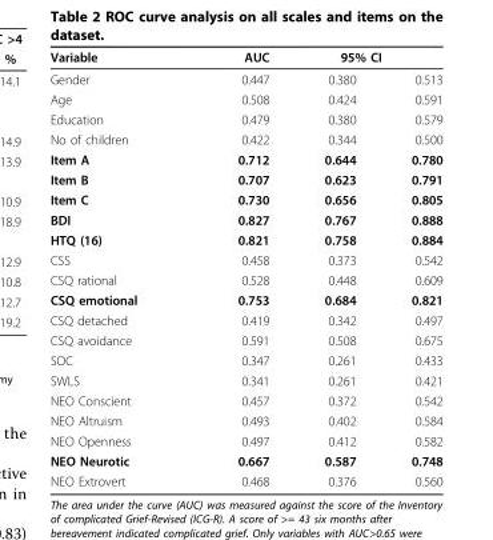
<table><thead><tr><td rowspan="2">Variable Gender</td><td rowspan="2">AUC 0.447</td><td colspan="2">95% CI</td></tr><tr><td>0.380</td><td>0.513</td></tr></thead><tbody><tr><td>Age</td><td>0.508</td><td>0.424</td><td>0.591</td></tr><tr><td>Education</td><td>0.479</td><td>0.380</td><td>0.579</td></tr><tr><td>No of children</td><td>0.422</td><td>0.344</td><td>0.500</td></tr><tr><td>Item A</td><td>0.712</td><td>0.644</td><td>0.780</td></tr><tr><td>Item B</td><td>0.707</td><td>0.623</td><td>0.791</td></tr><tr><td>Item C</td><td>0.730</td><td>0.656</td><td>0.805</td></tr><tr><td>BDI</td><td>0.827</td><td>0.767</td><td>0.888</td></tr><tr><td>HTQ (16)</td><td>0.821</td><td>0.758</td><td>0.884</td></tr><tr><td>CSS</td><td>0.458</td><td>0.373</td><td>0.542</td></tr><tr><td>CSQ rational</td><td>0.528</td><td>0.448</td><td>0.609</td></tr><tr><td>CSQ emotional</td><td>0.753</td><td>0.684</td><td>0.821</td></tr><tr><td>CSQ detached</td><td>0.419</td><td>0.342</td><td>0.497</td></tr><tr><td>CSQ avoidance</td><td>0.591</td><td>0.508</td><td>0.675</td></tr><tr><td>SOC</td><td>0.347</td><td>0.261</td><td>0.433</td></tr><tr><td>SWLS</td><td>0.341</td><td>0.261</td><td>0.421</td></tr><tr><td>NEO Conscient</td><td>0.457</td><td>0.372</td><td>0.542</td></tr><tr><td>NEO Altruism</td><td>0.493</td><td>0.402</td><td>0.584</td></tr><tr><td>NEO Openness</td><td>0.497</td><td>0.412</td><td>0.582</td></tr><tr><td>NEO Neurotic</td><td>0.667</td><td>0.587</td><td>0.748</td></tr><tr><td>NEO Extrovert</td><td>0.468</td><td>0.376</td><td>0.560</td></tr></tbody></table>